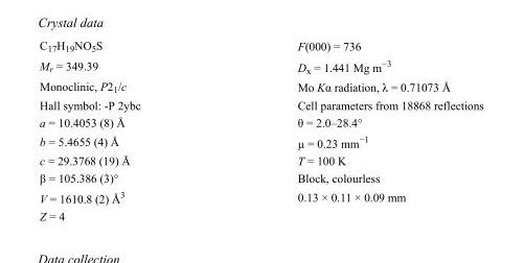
<table><tbody><tr><td>C<sub>17</sub>H<sub>19</sub>NO<sub>5</sub>S</td><td>F(000) = 736</td></tr><tr><td>M<sub>r</sub> = 349.39</td><td>D<sub>x</sub> = 1.441 Mg m<sup>−3</sup></td></tr><tr><td>Monoclinic, P2<sub>1</sub>/c</td><td>Mo Kα radiation, λ = 0.71073 Å</td></tr><tr><td>Hall symbol: -P 2ybc</td><td>Cell parameters from 18868 reflections</td></tr><tr><td>a = 10.4053 (8) Å</td><td>θ = 2.0–28.4°</td></tr><tr><td>b = 5.4655 (4) Å</td><td>µ = 0.23 mm<sup>−1</sup></td></tr><tr><td>c = 29.3768 (19) Å</td><td>T = 100 K</td></tr><tr><td>β = 105.386 (3)°</td><td>Block, colourless</td></tr><tr><td>V = 1610.8 (2) Å<sup>3</sup></td><td>0.13 × 0.11 × 0.09 mm</td></tr><tr><td>Z = 4</td><td></td></tr></tbody></table>